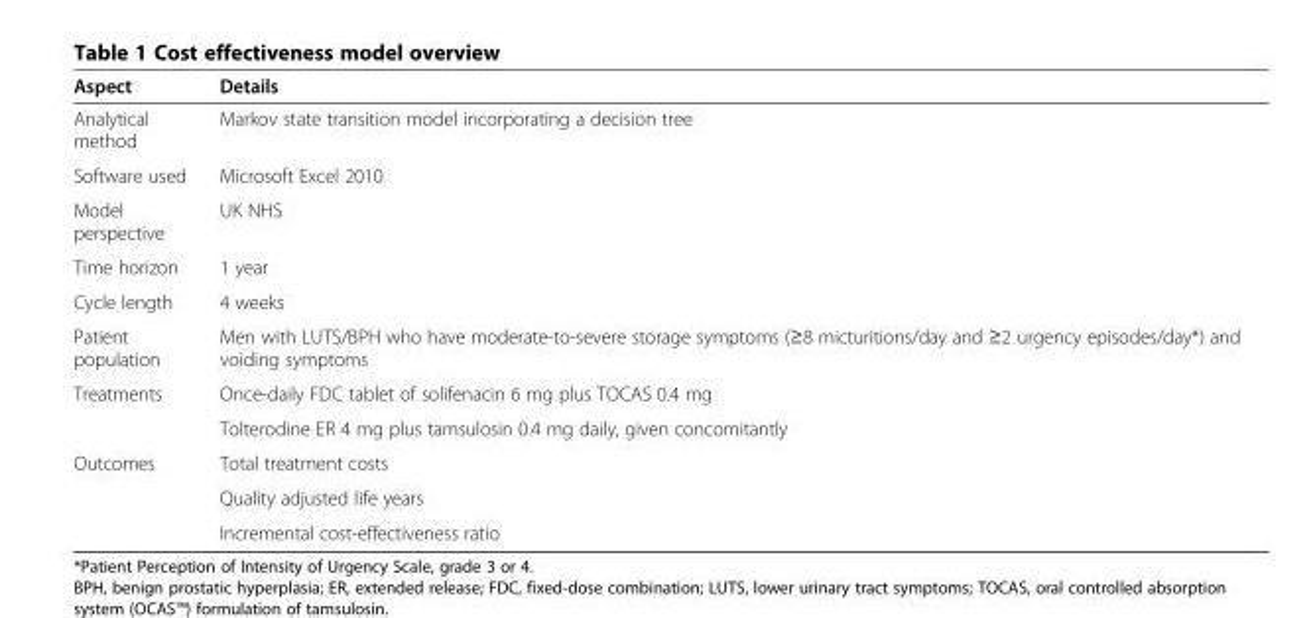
<table><thead><tr><td>Aspect</td><td>Details</td></tr></thead><tbody><tr><td>Analytical method</td><td>Markov state transition model incorporating a decision tree</td></tr><tr><td>Software used</td><td>Microsoft Excel 2010</td></tr><tr><td>Model perspective</td><td>UK NHS</td></tr><tr><td>Time horizon</td><td>1 year</td></tr><tr><td>Cycle length</td><td>4 weeks</td></tr><tr><td>Patient population</td><td>Men with LUTS/BPH who have moderate-to-severe storage symptoms (≥8 micturitions/day and ≥2 urgency episodes/day*) and voiding symptoms</td></tr><tr><td rowspan="2">Treatments</td><td>Once-daily FDC tablet of solifenacin 6 mg plus TOCAS 0.4 mg</td></tr><tr><td>Tolterodine ER 4 mg plus tamsulosin 0.4 mg daily, given concomitantly</td></tr><tr><td rowspan="3">Outcomes</td><td>Total treatment costs</td></tr><tr><td>Quality adjusted life years</td></tr><tr><td>Incremental cost-effectiveness ratio</td></tr></tbody></table>